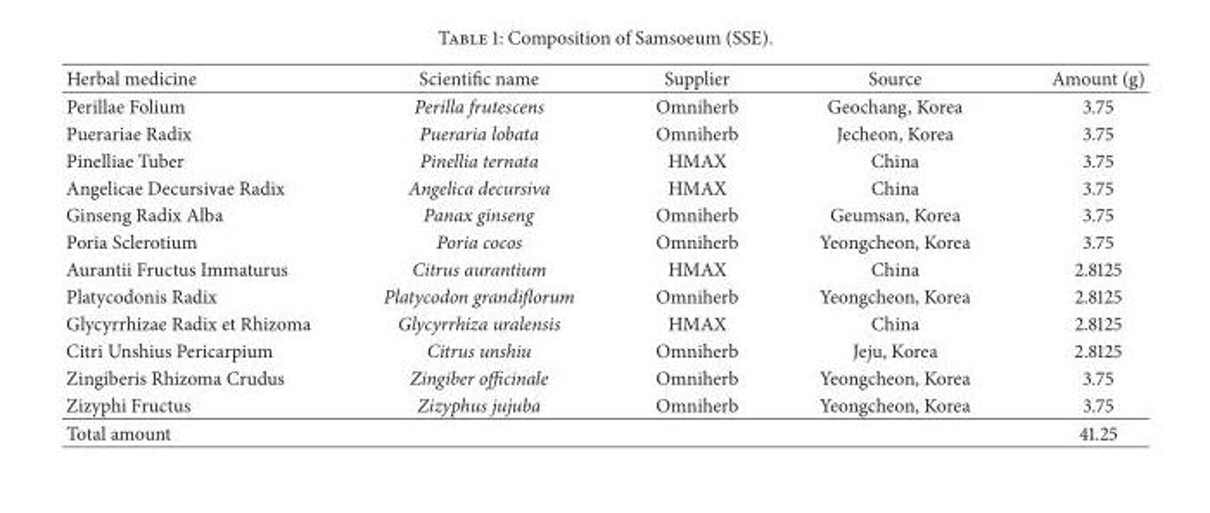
<table><thead><tr><td>Herbal medicine</td><td>Scientific name</td><td>Supplier</td><td>Source</td><td>Amount (g)</td></tr></thead><tbody><tr><td>Perillae Folium</td><td>Perilla frutescens</td><td>Omniherb</td><td>Geochang, Korea</td><td>3.75</td></tr><tr><td>Puerariae Radix</td><td>Pueraria lobata</td><td>Omniherb</td><td>Jecheon, Korea</td><td>3.75</td></tr><tr><td>Pinelliae Tuber</td><td>Pinellia ternata</td><td>HMAX</td><td>China</td><td>3.75</td></tr><tr><td>Angelicae Decursivae Radix</td><td>Angelica decursiva</td><td>HMAX</td><td>China</td><td>3.75</td></tr><tr><td>Ginseng Radix Alba</td><td>Panax ginseng</td><td>Omniherb</td><td>Geumsan, Korea</td><td>3.75</td></tr><tr><td>Poria Sclerotium</td><td>Poria cocos</td><td>Omniherb</td><td>Yeongcheon, Korea</td><td>3.75</td></tr><tr><td>Aurantii Fructus Immaturus</td><td>Citrus aurantium</td><td>HMAX</td><td>China</td><td>2.8125</td></tr><tr><td>Platycodonis Radix</td><td>Platycodon grandiflorum</td><td>Omniherb</td><td>Yeongcheon, Korea</td><td>2.8125</td></tr><tr><td>Glycyrrhizae Radix et Rhizoma</td><td>Glycyrrhiza uralensis</td><td>HMAX</td><td>China</td><td>2.8125</td></tr><tr><td>Citri Unshius Pericarpium</td><td>Citrus unshiu</td><td>Omniherb</td><td>Jeju, Korea</td><td>2.8125</td></tr><tr><td>Zingiberis Rhizoma Crudus</td><td>Zingiber officinale</td><td>Omniherb</td><td>Yeongcheon, Korea</td><td>3.75</td></tr><tr><td>Zizyphi Fructus</td><td>Zizyphus jujuba</td><td>Omniherb</td><td>Yeongcheon, Korea</td><td>3.75</td></tr><tr><td>Total amount</td><td></td><td></td><td></td><td>41.25</td></tr></tbody></table>